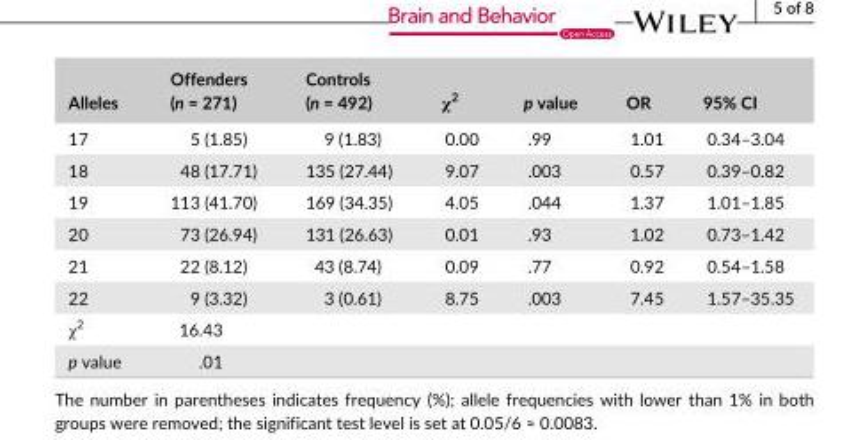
<table><thead><tr><td>Alleles</td><td>Offenders (n = 271)</td><td>Controls (n = 492)</td><td>χ<sup>2</sup></td><td>p value</td><td>OR</td><td>95% CI</td></tr></thead><tbody><tr><td>17</td><td>5 (1.85)</td><td>9 (1.83)</td><td>0.00</td><td>.99</td><td>1.01</td><td>0.34–3.04</td></tr><tr><td>18</td><td>48 (17.71)</td><td>135 (27.44)</td><td>9.07</td><td>.003</td><td>0.57</td><td>0.39–0.82</td></tr><tr><td>19</td><td>113 (41.70)</td><td>169 (34.35)</td><td>4.05</td><td>.044</td><td>1.37</td><td>1.01–1.85</td></tr><tr><td>20</td><td>73 (26.94)</td><td>131 (26.63)</td><td>0.01</td><td>.93</td><td>1.02</td><td>0.73–1.42</td></tr><tr><td>21</td><td>22 (8.12)</td><td>43 (8.74)</td><td>0.09</td><td>.77</td><td>0.92</td><td>0.54–1.58</td></tr><tr><td>22</td><td>9 (3.32)</td><td>3 (0.61)</td><td>8.75</td><td>.003</td><td>7.45</td><td>1.57–35.35</td></tr><tr><td>χ<sup>2</sup></td><td colspan="6">16.43</td></tr><tr><td>p value</td><td colspan="6">.01</td></tr></tbody></table>